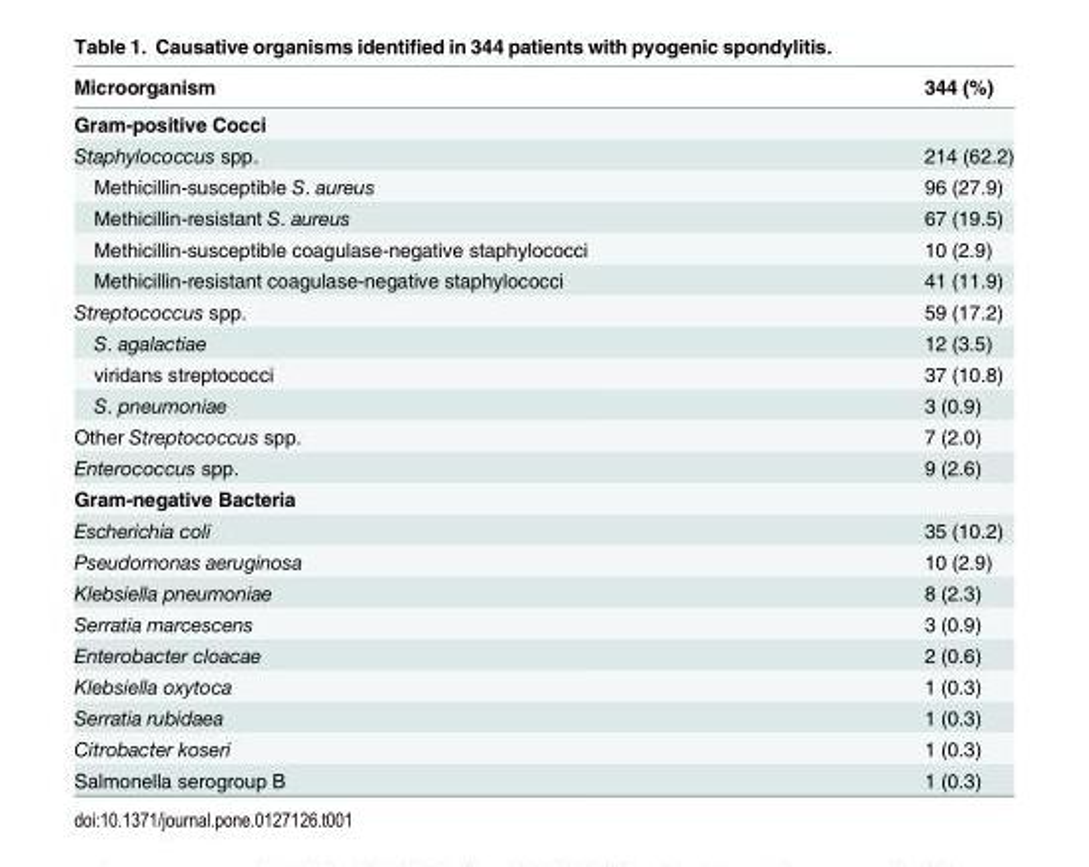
<table><thead><tr><td>Microorganism</td><td>344 (%)</td></tr></thead><tbody><tr><td colspan="2">Gram-positive Cocci</td></tr><tr><td>Staphylococcus spp.</td><td>214 (62.2)</td></tr><tr><td>Methicillin-susceptible S. aureus</td><td>96 (27.9)</td></tr><tr><td>Methicillin-resistant S. aureus</td><td>67 (19.5)</td></tr><tr><td>Methicillin-susceptible coagulase-negative staphylococci</td><td>10 (2.9)</td></tr><tr><td>Methicillin-resistant coagulase-negative staphylococci</td><td>41 (11.9)</td></tr><tr><td>Streptococcus spp.</td><td>59 (17.2)</td></tr><tr><td>S. agalactiae</td><td>12 (3.5)</td></tr><tr><td>viridans streptococci</td><td>37 (10.8)</td></tr><tr><td>S. pneumoniae</td><td>3 (0.9)</td></tr><tr><td>Other Streptococcus spp.</td><td>7 (2.0)</td></tr><tr><td>Enterococcus spp.</td><td>9 (2.6)</td></tr><tr><td colspan="2">Gram-negative Bacteria</td></tr><tr><td>Escherichia coli</td><td>35 (10.2)</td></tr><tr><td>Pseudomonas aeruginosa</td><td>10 (2.9)</td></tr><tr><td>Klebsiella pneumoniae</td><td>8 (2.3)</td></tr><tr><td>Serratia marcescens</td><td>3 (0.9)</td></tr><tr><td>Enterobacter cloacae</td><td>2 (0.6)</td></tr><tr><td>Klebsiella oxytoca</td><td>1 (0.3)</td></tr><tr><td>Serratia rubidaea</td><td>1 (0.3)</td></tr><tr><td>Citrobacter koseri</td><td>1 (0.3)</td></tr><tr><td>Salmonella serogroup B</td><td>1 (0.3)</td></tr></tbody></table>